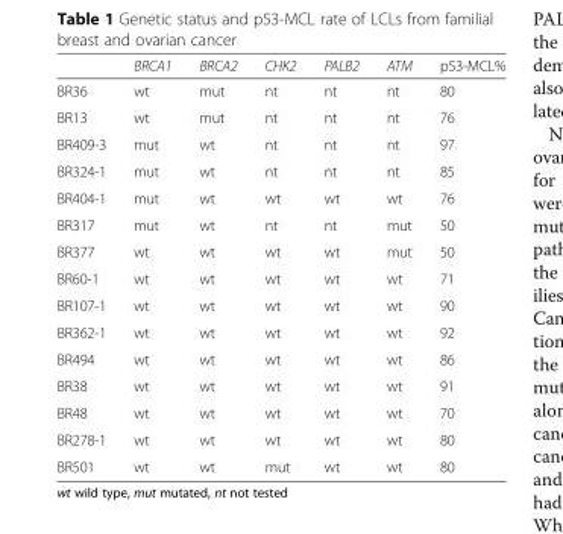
<table><thead><tr><td></td><td>BRCA1</td><td>BRCA2</td><td>CHK2</td><td>PALB2</td><td>ATM</td><td>p53-MCL%</td></tr></thead><tbody><tr><td>BR36</td><td>wt</td><td>mut</td><td>nt</td><td>nt</td><td>nt</td><td>80</td></tr><tr><td>BR13</td><td>wt</td><td>mut</td><td>nt</td><td>nt</td><td>nt</td><td>76</td></tr><tr><td>BR409-3</td><td>mut</td><td>wt</td><td>nt</td><td>nt</td><td>nt</td><td>97</td></tr><tr><td>BR324-1</td><td>mut</td><td>wt</td><td>nt</td><td>nt</td><td>nt</td><td>85</td></tr><tr><td>BR404-1</td><td>mut</td><td>wt</td><td>wt</td><td>wt</td><td>wt</td><td>76</td></tr><tr><td>BR317</td><td>mut</td><td>wt</td><td>nt</td><td>nt</td><td>mut</td><td>50</td></tr><tr><td>BR377</td><td>wt</td><td>wt</td><td>wt</td><td>wt</td><td>mut</td><td>50</td></tr><tr><td>BR60-1</td><td>wt</td><td>wt</td><td>wt</td><td>wt</td><td>wt</td><td>71</td></tr><tr><td>BR107-1</td><td>wt</td><td>wt</td><td>wt</td><td>wt</td><td>wt</td><td>90</td></tr><tr><td>BR362-1</td><td>wt</td><td>wt</td><td>wt</td><td>wt</td><td>wt</td><td>92</td></tr><tr><td>BR494</td><td>wt</td><td>wt</td><td>wt</td><td>wt</td><td>wt</td><td>86</td></tr><tr><td>BR38</td><td>wt</td><td>wt</td><td>wt</td><td>wt</td><td>wt</td><td>91</td></tr><tr><td>BR48</td><td>wt</td><td>wt</td><td>wt</td><td>wt</td><td>wt</td><td>70</td></tr><tr><td>BR278-1</td><td>wt</td><td>wt</td><td>wt</td><td>wt</td><td>wt</td><td>80</td></tr><tr><td>BR501</td><td>wt</td><td>wt</td><td>mut</td><td>wt</td><td>wt</td><td>80</td></tr></tbody></table>